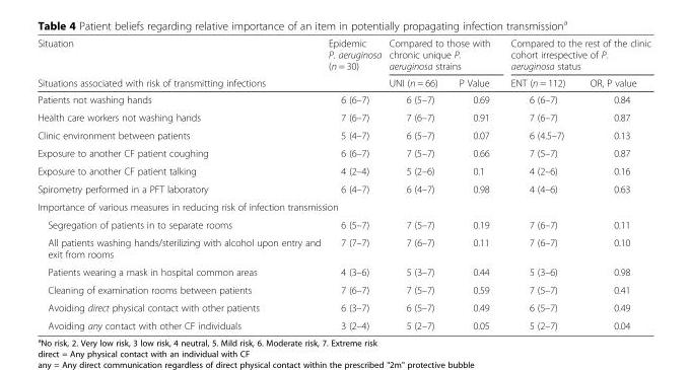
<table><thead><tr><td rowspan="2">Situation Situations associated with risk of transmitting infections</td><td rowspan="2">Epidemic P. aeruginosa (n = 30)</td><td colspan="2">Compared to those with chronic unique P. aeruginosa strains</td><td colspan="2">Compared to the rest of the clinic cohort irrespective of P. aeruginosa status</td></tr><tr><td>UNI (n = 66)</td><td>P Value</td><td>ENT (n = 112)</td><td>OR, P value</td></tr></thead><tbody><tr><td>Patients not washing hands</td><td>6 (6–7)</td><td>6 (5–7)</td><td>0.69</td><td>6 (6–7)</td><td>0.84</td></tr><tr><td>Health care workers not washing hands</td><td>7 (6–7)</td><td>7 (6–7)</td><td>0.91</td><td>7 (6–7)</td><td>0.87</td></tr><tr><td>Clinic environment between patients</td><td>5 (4–7)</td><td>6 (5–7)</td><td>0.07</td><td>6 (4.5–7)</td><td>0.13</td></tr><tr><td>Exposure to another CF patient coughing</td><td>6 (6–7)</td><td>7 (5–7)</td><td>0.66</td><td>7 (5–7)</td><td>0.87</td></tr><tr><td>Exposure to another CF patient talking</td><td>4 (2–4)</td><td>5 (2–6)</td><td>0.1</td><td>4 (2–6)</td><td>0.16</td></tr><tr><td>Spirometry performed in a PFT laboratory</td><td>6 (4–7)</td><td>6 (4–7)</td><td>0.98</td><td>4 (4–6)</td><td>0.63</td></tr><tr><td colspan="6">Importance of various measures in reducing risk of infection transmission</td></tr><tr><td>Segregation of patients in to separate rooms</td><td>6 (5–7)</td><td>7 (5–7)</td><td>0.19</td><td>7 (6–7)</td><td>0.11</td></tr><tr><td>All patients washing hands/sterilizing with alcohol upon entry and exit from rooms</td><td>7 (7–7)</td><td>7 (6–7)</td><td>0.11</td><td>7 (6–7)</td><td>0.10</td></tr><tr><td>Patients wearing a mask in hospital common areas</td><td>4 (3–6)</td><td>5 (3–7)</td><td>0.44</td><td>5 (3–6)</td><td>0.98</td></tr><tr><td>Cleaning of examination rooms between patients</td><td>7 (6–7)</td><td>7 (5–7)</td><td>0.59</td><td>7 (5–7)</td><td>0.41</td></tr><tr><td>Avoiding direct physical contact with other patients</td><td>6 (3–7)</td><td>6 (5–7)</td><td>0.49</td><td>6 (5–7)</td><td>0.49</td></tr><tr><td>Avoiding any contact with other CF individuals</td><td>3 (2–4)</td><td>5 (2–7)</td><td>0.05</td><td>5 (2–7)</td><td>0.04</td></tr></tbody></table>